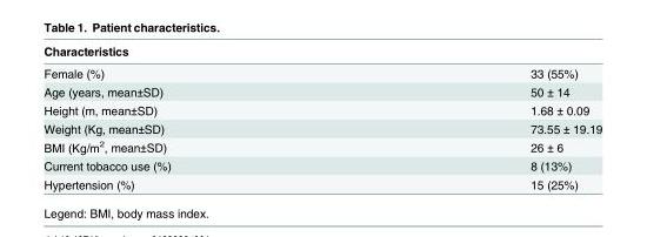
<table><thead><tr><td>Characteristics</td><td></td></tr></thead><tbody><tr><td>Female (%)</td><td>33 (55%)</td></tr><tr><td>Age (years, mean±SD)</td><td>50 ± 14</td></tr><tr><td>Height (m, mean±SD)</td><td>1.68 ± 0.09</td></tr><tr><td>Weight (Kg, mean±SD)</td><td>73.55 ± 19.19</td></tr><tr><td>BMI (Kg/m<sup>2</sup>, mean±SD)</td><td>26 ± 6</td></tr><tr><td>Current tobacco use (%)</td><td>8 (13%)</td></tr><tr><td>Hypertension (%)</td><td>15 (25%)</td></tr></tbody></table>